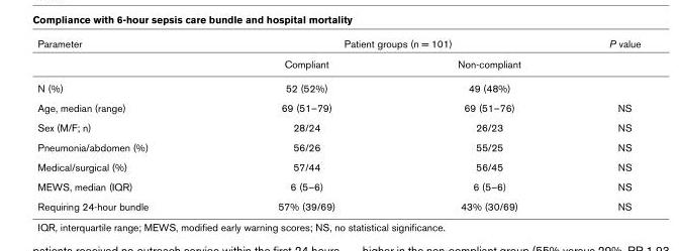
<table><thead><tr><td rowspan="2">Parameter</td><td colspan="2">Patient groups (n = 101)</td><td rowspan="2">P value</td></tr><tr><td>Compliant</td><td>Non-compliant</td></tr></thead><tbody><tr><td>N (%)</td><td>52 (52%)</td><td>49 (48%)</td><td></td></tr><tr><td>Age, median (range)</td><td>69 (51–79)</td><td>69 (51–76)</td><td>NS</td></tr><tr><td>Sex (M/F; n)</td><td>28/24</td><td>26/23</td><td>NS</td></tr><tr><td>Pneumonia/abdomen (%)</td><td>56/26</td><td>55/25</td><td>NS</td></tr><tr><td>Medical/surgical (%)</td><td>57/44</td><td>56/45</td><td>NS</td></tr><tr><td>MEWS, median (IQR)</td><td>6 (5–6)</td><td>6 (5–6)</td><td>NS</td></tr><tr><td>Requiring 24-hour bundle</td><td>57% (39/69)</td><td>43% (30/69)</td><td>NS</td></tr></tbody></table>